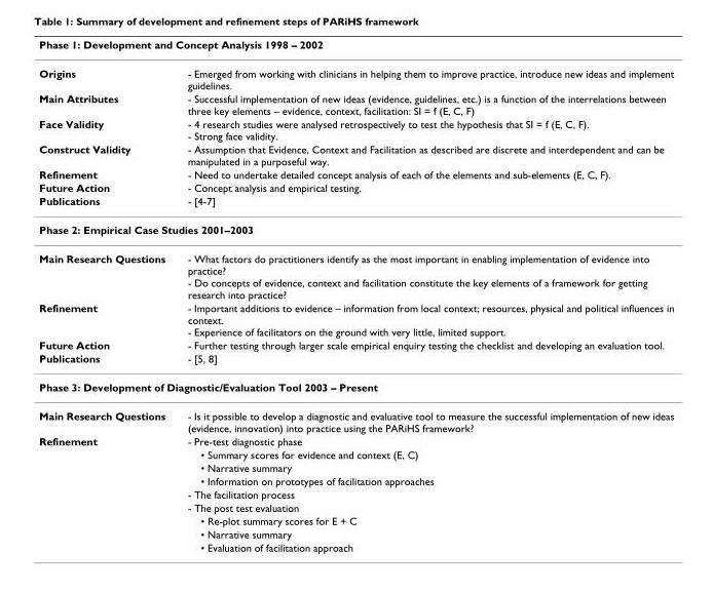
<table><thead><tr><td colspan="2">Phase 1: Development and Concept Analysis 1998 – 2002</td></tr><tr><td>Origins</td><td>- Emerged from working with clinicians in helping them to improve practice, introduce new ideas and implement guidelines.</td></tr></thead><tbody><tr><td>Main Attributes</td><td>- Successful implementation of new ideas (evidence, guidelines, etc.) is a function of the interrelations between three key elements – evidence, context, facilitation: SI = f (E, C, F)</td></tr><tr><td>Face Validity</td><td>- 4 research studies were analysed retrospectively to test the hypothesis that SI = f (E, C, F). - Strong face validity.</td></tr><tr><td>Construct Validity</td><td>- Assumption that Evidence, Context and Facilitation as described are discrete and interdependent and can be manipulated in a purposeful way.</td></tr><tr><td>Refinement</td><td>- Need to undertake detailed concept analysis of each of the elements and sub-elements (E, C, F).</td></tr><tr><td>Future Action</td><td>- Concept analysis and empirical testing.</td></tr><tr><td>Publications</td><td>- [4-7]</td></tr><tr><td colspan="2">Phase 2: Empirical Case Studies 2001–2003</td></tr><tr><td>Main Research Questions</td><td>- What factors do practitioners identify as the most important in enabling implementation of evidence into practice? - Do concepts of evidence, context and facilitation constitute the key elements of a framework for getting research into practice?</td></tr><tr><td>Refinement</td><td>- Important additions to evidence – information from local context; resources, physical and political influences in context. - Experience of facilitators on the ground with very little, limited support.</td></tr><tr><td>Future Action</td><td>- Further testing through larger scale empirical enquiry testing the checklist and developing an evaluation tool.</td></tr><tr><td>Publications</td><td>- [5, 8]</td></tr><tr><td colspan="2">Phase 3: Development of Diagnostic/Evaluation Tool 2003 – Present</td></tr><tr><td>Main Research Questions</td><td>- Is it possible to develop a diagnostic and evaluative tool to measure the successful implementation of new ideas (evidence, innovation) into practice using the PARiHS framework?</td></tr><tr><td rowspan="9">Refinement</td><td>- Pre-test diagnostic phase</td></tr><tr><td>• Summary scores for evidence and context (E, C)</td></tr><tr><td>• Narrative summary</td></tr><tr><td>• Information on prototypes of facilitation approaches</td></tr><tr><td>- The facilitation process</td></tr><tr><td>- The post test evaluation</td></tr><tr><td>• Re-plot summary scores for E + C</td></tr><tr><td>• Narrative summary</td></tr><tr><td>• Evaluation of facilitation approach</td></tr></tbody></table>